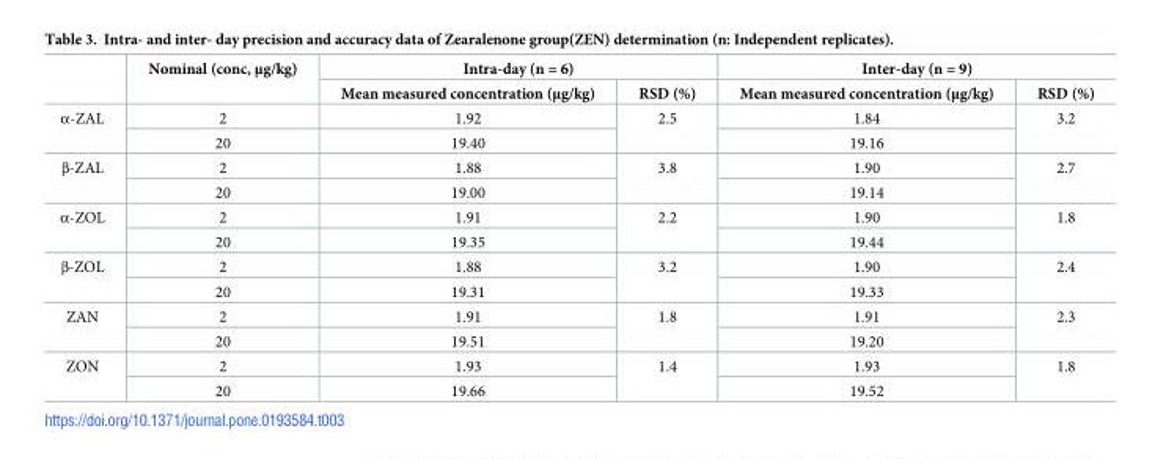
<table><thead><tr><td rowspan="2"></td><td rowspan="2">Nominal (conc, μg/kg)</td><td colspan="2">Intra-day (n = 6)</td><td colspan="2">Inter-day (n = 9)</td></tr><tr><td>Mean measured concentration (μg/kg)</td><td>RSD (%)</td><td>Mean measured concentration (μg/kg)</td><td>RSD (%)</td></tr></thead><tbody><tr><td rowspan="2">α-ZAL</td><td>2</td><td>1.92</td><td rowspan="2">2.5</td><td>1.84</td><td rowspan="2">3.2</td></tr><tr><td>20</td><td>19.40</td><td>19.16</td></tr><tr><td rowspan="2">β-ZAL</td><td>2</td><td>1.88</td><td rowspan="2">3.8</td><td>1.90</td><td rowspan="2">2.7</td></tr><tr><td>20</td><td>19.00</td><td>19.14</td></tr><tr><td rowspan="2">α-ZOL</td><td>2</td><td>1.91</td><td rowspan="2">2.2</td><td>1.90</td><td rowspan="2">1.8</td></tr><tr><td>20</td><td>19.35</td><td>19.44</td></tr><tr><td rowspan="2">β-ZOL</td><td>2</td><td>1.88</td><td rowspan="2">3.2</td><td>1.90</td><td rowspan="2">2.4</td></tr><tr><td>20</td><td>19.31</td><td>19.33</td></tr><tr><td rowspan="2">ZAN</td><td>2</td><td>1.91</td><td rowspan="2">1.8</td><td>1.91</td><td rowspan="2">2.3</td></tr><tr><td>20</td><td>19.51</td><td>19.20</td></tr><tr><td rowspan="2">ZON</td><td>2</td><td>1.93</td><td rowspan="2">1.4</td><td>1.93</td><td rowspan="2">1.8</td></tr><tr><td>20</td><td>19.66</td><td>19.52</td></tr></tbody></table>